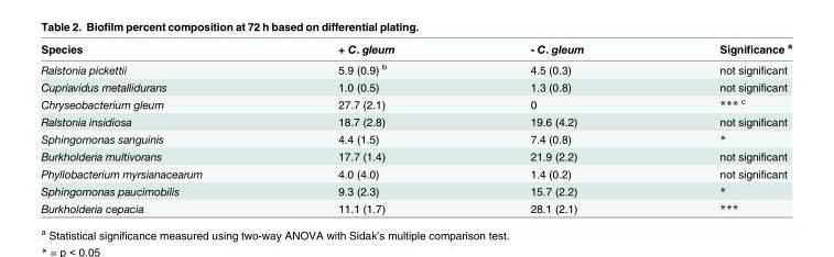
<table><thead><tr><td>Species</td><td>+ C. gleum</td><td>- C. gleum</td><td>Significance <sup>a</sup></td></tr></thead><tbody><tr><td>Ralstonia pickettii</td><td>5.9 (0.9) <sup>b</sup></td><td>4.5 (0.3)</td><td>not significant</td></tr><tr><td>Cupriavidus metallidurans</td><td>1.0 (0.5)</td><td>1.3 (0.8)</td><td>not significant</td></tr><tr><td>Chryseobacterium gleum</td><td>27.7 (2.1)</td><td>0</td><td>*** <sup>c</sup></td></tr><tr><td>Ralstonia insidiosa</td><td>18.7 (2.8)</td><td>19.6 (4.2)</td><td>not significant</td></tr><tr><td>Sphingomonas sanguinis</td><td>4.4 (1.5)</td><td>7.4 (0.8)</td><td>*</td></tr><tr><td>Burkholderia multivorans</td><td>17.7 (1.4)</td><td>21.9 (2.2)</td><td>not significant</td></tr><tr><td>Phyllobacterium myrsianacearum</td><td>4.0 (4.0)</td><td>1.4 (0.2)</td><td>not significant</td></tr><tr><td>Sphingomonas paucimobilis</td><td>9.3 (2.3)</td><td>15.7 (2.2)</td><td>*</td></tr><tr><td>Burkholderia cepacia</td><td>11.1 (1.7)</td><td>28.1 (2.1)</td><td>***</td></tr></tbody></table>